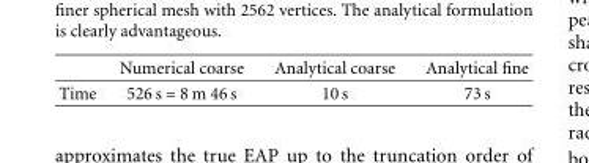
<table><thead><tr><td></td><td>Numerical coarse</td><td>Analytical coarse</td><td>Analytical fine</td></tr></thead><tbody><tr><td>Time</td><td>526 s = 8 m 46 s</td><td>10 s</td><td>73 s</td></tr></tbody></table>